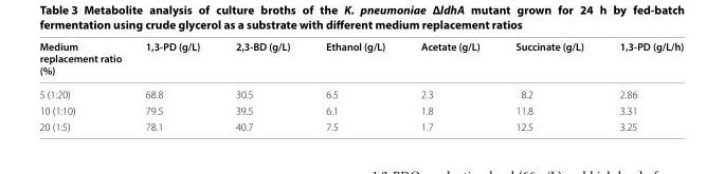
<table><thead><tr><td>Medium replacement ratio (%)</td><td>1,3‑PD (g/L)</td><td>2,3‑BD (g/L)</td><td>Ethanol (g/L)</td><td>Acetate (g/L)</td><td>Succinate (g/L)</td><td>1,3‑PD (g/L/h)</td></tr></thead><tbody><tr><td>5 (1:20)</td><td>68.8</td><td>30.5</td><td>6.5</td><td>2.3</td><td>8.2</td><td>2.86</td></tr><tr><td>10 (1:10)</td><td>79.5</td><td>39.5</td><td>6.1</td><td>1.8</td><td>11.8</td><td>3.31</td></tr><tr><td>20 (1:5)</td><td>78.1</td><td>40.7</td><td>7.5</td><td>1.7</td><td>12.5</td><td>3.25</td></tr></tbody></table>